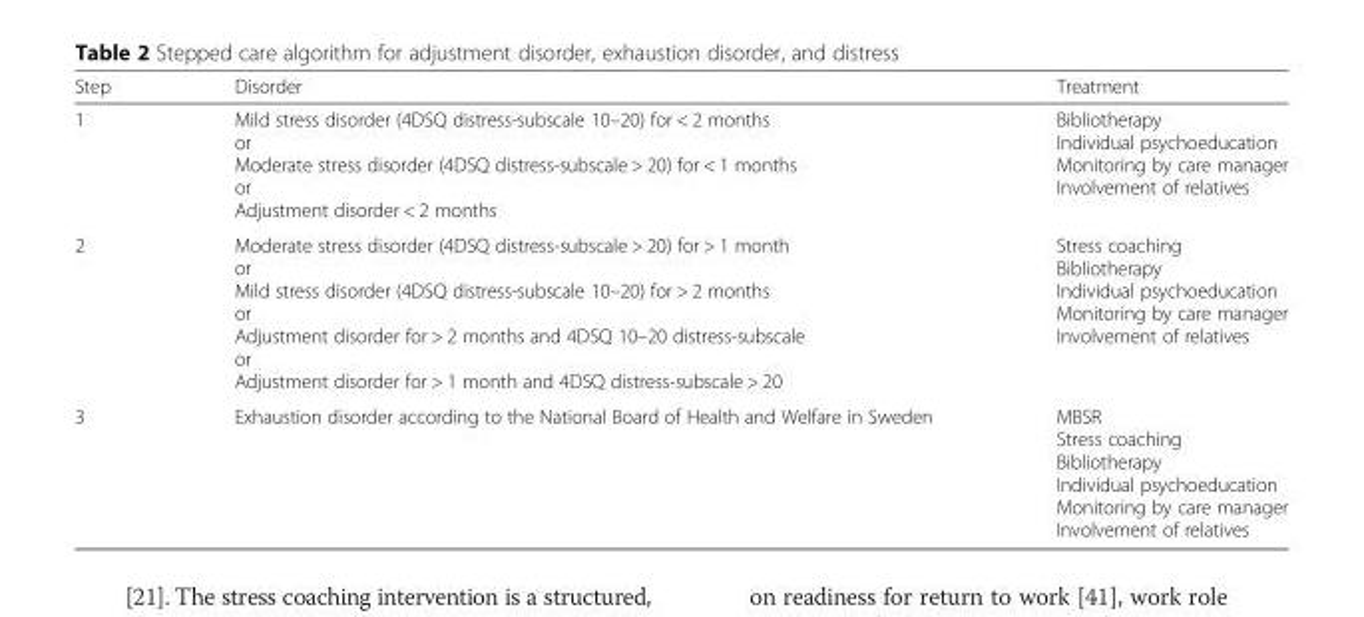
<table><thead><tr><td>Step</td><td>Disorder</td><td>Treatment</td></tr></thead><tbody><tr><td>1</td><td>Mild stress disorder (4DSQ distress-subscale 10–20) for &lt; 2 months or Moderate stress disorder (4DSQ distress-subscale &gt; 20) for &lt; 1 months or Adjustment disorder &lt; 2 months</td><td>Bibliotherapy Individual psychoeducation Monitoring by care manager Involvement of relatives</td></tr><tr><td>2</td><td>Moderate stress disorder (4DSQ distress-subscale &gt; 20) for &gt; 1 month or Mild stress disorder (4DSQ distress-subscale 10–20) for &gt; 2 months or Adjustment disorder for &gt; 2 months and 4DSQ 10–20 distress-subscale or Adjustment disorder for &gt; 1 month and 4DSQ distress-subscale &gt; 20</td><td>Stress coaching Bibliotherapy Individual psychoeducation Monitoring by care manager Involvement of relatives</td></tr><tr><td>3</td><td>Exhaustion disorder according to the National Board of Health and Welfare in Sweden</td><td>MBSR Stress coaching Bibliotherapy Individual psychoeducation Monitoring by care manager Involvement of relatives</td></tr></tbody></table>